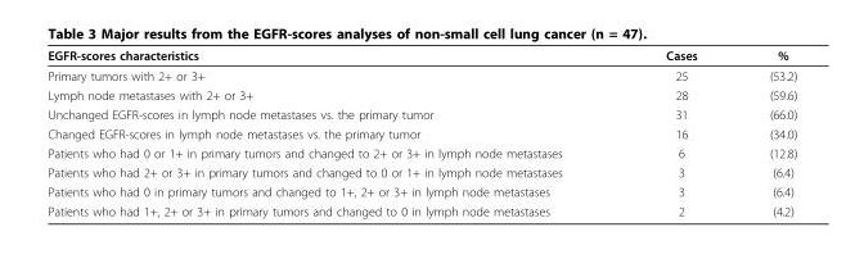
<table><thead><tr><td>EGFR-scores characteristics</td><td>Cases</td><td>%</td></tr></thead><tbody><tr><td>Primary tumors with 2+ or 3+</td><td>25</td><td>(53.2)</td></tr><tr><td>Lymph node metastases with 2+ or 3+</td><td>28</td><td>(59.6)</td></tr><tr><td>Unchanged EGFR-scores in lymph node metastases vs. the primary tumor</td><td>31</td><td>(66.0)</td></tr><tr><td>Changed EGFR-scores in lymph node metastases vs. the primary tumor</td><td>16</td><td>(34.0)</td></tr><tr><td>Patients who had 0 or 1+ in primary tumors and changed to 2+ or 3+ in lymph node metastases</td><td>6</td><td>(12.8)</td></tr><tr><td>Patients who had 2+ or 3+ in primary tumors and changed to 0 or 1+ in lymph node metastases</td><td>3</td><td>(6.4)</td></tr><tr><td>Patients who had 0 in primary tumors and changed to 1+, 2+ or 3+ in lymph node metastases</td><td>3</td><td>(6.4)</td></tr><tr><td>Patients who had 1+, 2+ or 3+ in primary tumors and changed to 0 in lymph node metastases</td><td>2</td><td>(4.2)</td></tr></tbody></table>